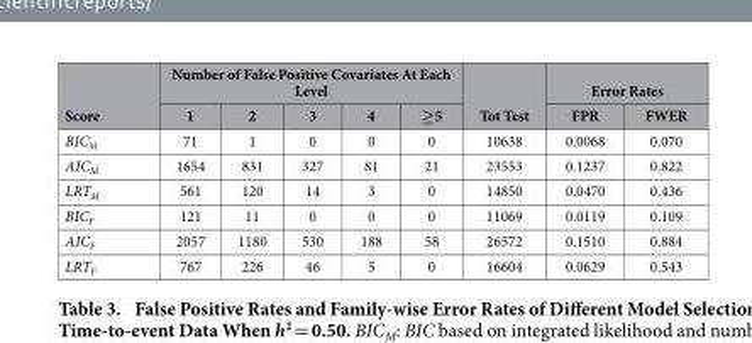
<table><thead><tr><td rowspan="2">Score</td><td colspan="5">Number of False Positive Covariates At Each Level</td><td rowspan="2">Tot Test</td><td colspan="2">Error Rates</td></tr><tr><td>1</td><td>2</td><td>3</td><td>4</td><td>≥5</td><td>FPR</td><td>FWER</td></tr></thead><tbody><tr><td>BIC<sub>M</sub></td><td>71</td><td>1</td><td>0</td><td>0</td><td>0</td><td>10638</td><td>0.0068</td><td>0.070</td></tr><tr><td>AIC<sub>M</sub></td><td>1654</td><td>831</td><td>327</td><td>81</td><td>21</td><td>23553</td><td>0.1237</td><td>0.822</td></tr><tr><td>LRT<sub>M</sub></td><td>561</td><td>120</td><td>14</td><td>3</td><td>0</td><td>14850</td><td>0.0470</td><td>0.436</td></tr><tr><td>BIC<sub>F</sub></td><td>121</td><td>11</td><td>0</td><td>0</td><td>0</td><td>11069</td><td>0.0119</td><td>0.109</td></tr><tr><td>AIC<sub>F</sub></td><td>2057</td><td>1180</td><td>530</td><td>188</td><td>58</td><td>26572</td><td>0.1510</td><td>0.884</td></tr><tr><td>LRT<sub>F</sub></td><td>767</td><td>226</td><td>46</td><td>5</td><td>0</td><td>16604</td><td>0.0629</td><td>0.543</td></tr></tbody></table>